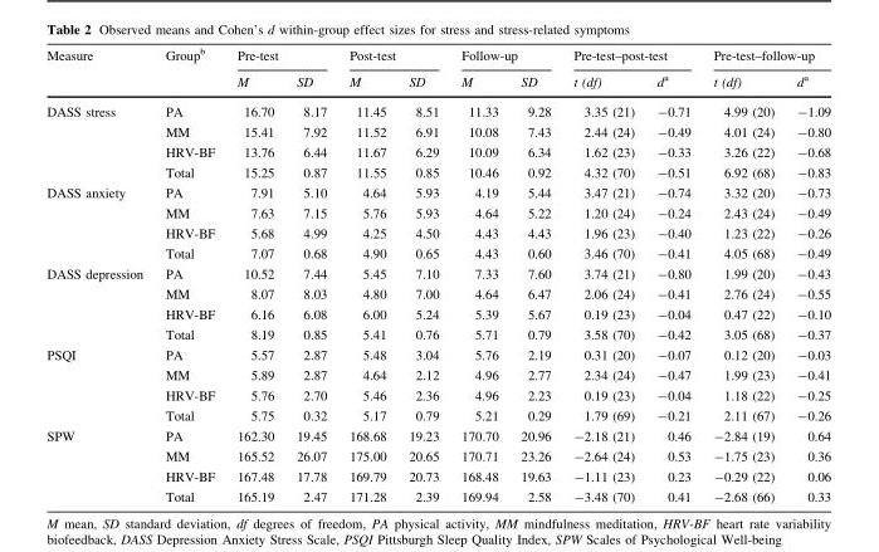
<table><thead><tr><td rowspan="2">Measure</td><td rowspan="2">Group<sup>b</sup></td><td colspan="2">Pre-test</td><td colspan="2">Post-test</td><td colspan="2">Follow-up</td><td colspan="2">Pre-test–post-test</td><td colspan="2">Pre-test–follow-up</td></tr><tr><td>M</td><td>SD</td><td>M</td><td>SD</td><td>M</td><td>SD</td><td>t (df)</td><td>d<sup>a</sup></td><td>t (df)</td><td>d<sup>a</sup></td></tr></thead><tbody><tr><td rowspan="4">DASS stress</td><td>PA</td><td>16.70</td><td>8.17</td><td>11.45</td><td>8.51</td><td>11.33</td><td>9.28</td><td>3.35 (21)</td><td>-0.71</td><td>4.99 (20)</td><td>-1.09</td></tr><tr><td>MM</td><td>15.41</td><td>7.92</td><td>11.52</td><td>6.91</td><td>10.08</td><td>7.43</td><td>2.44 (24)</td><td>-0.49</td><td>4.01 (24)</td><td>-0.80</td></tr><tr><td>HRV-BF</td><td>13.76</td><td>6.44</td><td>11.67</td><td>6.29</td><td>10.09</td><td>6.34</td><td>1.62 (23)</td><td>-0.33</td><td>3.26 (22)</td><td>-0.68</td></tr><tr><td>Total</td><td>15.25</td><td>0.87</td><td>11.55</td><td>0.85</td><td>10.46</td><td>0.92</td><td>4.32 (70)</td><td>-0.51</td><td>6.92 (68)</td><td>-0.83</td></tr><tr><td rowspan="4">DASS anxiety</td><td>PA</td><td>7.91</td><td>5.10</td><td>4.64</td><td>5.93</td><td>4.19</td><td>5.44</td><td>3.47 (21)</td><td>-0.74</td><td>3.32 (20)</td><td>-0.73</td></tr><tr><td>MM</td><td>7.63</td><td>7.15</td><td>5.76</td><td>5.93</td><td>4.64</td><td>5.22</td><td>1.20 (24)</td><td>-0.24</td><td>2.43 (24)</td><td>-0.49</td></tr><tr><td>HRV-BF</td><td>5.68</td><td>4.99</td><td>4.25</td><td>4.50</td><td>4.43</td><td>4.43</td><td>1.96 (23)</td><td>-0.40</td><td>1.23 (22)</td><td>-0.26</td></tr><tr><td>Total</td><td>7.07</td><td>0.68</td><td>4.90</td><td>0.65</td><td>4.43</td><td>0.60</td><td>3.46 (70)</td><td>-0.41</td><td>4.05 (68)</td><td>-0.49</td></tr><tr><td rowspan="4">DASS depression</td><td>PA</td><td>10.52</td><td>7.44</td><td>5.45</td><td>7.10</td><td>7.33</td><td>7.60</td><td>3.74 (21)</td><td>-0.80</td><td>1.99 (20)</td><td>-0.43</td></tr><tr><td>MM</td><td>8.07</td><td>8.03</td><td>4.80</td><td>7.00</td><td>4.64</td><td>6.47</td><td>2.06 (24)</td><td>-0.41</td><td>2.76 (24)</td><td>-0.55</td></tr><tr><td>HRV-BF</td><td>6.16</td><td>6.08</td><td>6.00</td><td>5.24</td><td>5.39</td><td>5.67</td><td>0.19 (23)</td><td>-0.04</td><td>0.47 (22)</td><td>-0.10</td></tr><tr><td>Total</td><td>8.19</td><td>0.85</td><td>5.41</td><td>0.76</td><td>5.71</td><td>0.79</td><td>3.58 (70)</td><td>-0.42</td><td>3.05 (68)</td><td>-0.37</td></tr><tr><td rowspan="4">PSQI</td><td>PA</td><td>5.57</td><td>2.87</td><td>5.48</td><td>3.04</td><td>5.76</td><td>2.19</td><td>0.31 (20)</td><td>-0.07</td><td>0.12 (20)</td><td>-0.03</td></tr><tr><td>MM</td><td>5.89</td><td>2.87</td><td>4.64</td><td>2.12</td><td>4.96</td><td>2.77</td><td>2.34 (24)</td><td>-0.47</td><td>1.99 (23)</td><td>-0.41</td></tr><tr><td>HRV-BF</td><td>5.76</td><td>2.70</td><td>5.46</td><td>2.36</td><td>4.96</td><td>2.23</td><td>0.19 (23)</td><td>-0.04</td><td>1.18 (22)</td><td>-0.25</td></tr><tr><td>Total</td><td>5.75</td><td>0.32</td><td>5.17</td><td>0.79</td><td>5.21</td><td>0.29</td><td>1.79 (69)</td><td>-0.21</td><td>2.11 (67)</td><td>-0.26</td></tr><tr><td rowspan="4">SPW</td><td>PA</td><td>162.30</td><td>19.45</td><td>168.68</td><td>19.23</td><td>170.70</td><td>20.96</td><td>-2.18 (21)</td><td>0.46</td><td>-2.84 (19)</td><td>0.64</td></tr><tr><td>MM</td><td>165.52</td><td>26.07</td><td>175.00</td><td>20.65</td><td>170.71</td><td>23.26</td><td>-2.64 (24)</td><td>0.53</td><td>-1.75 (23)</td><td>0.36</td></tr><tr><td>HRV-BF</td><td>167.48</td><td>17.78</td><td>169.79</td><td>20.73</td><td>168.48</td><td>19.63</td><td>-1.11 (23)</td><td>0.23</td><td>-0.29 (22)</td><td>0.06</td></tr><tr><td>Total</td><td>165.19</td><td>2.47</td><td>171.28</td><td>2.39</td><td>169.94</td><td>2.58</td><td>-3.48 (70)</td><td>0.41</td><td>-2.68 (66)</td><td>0.33</td></tr></tbody></table>